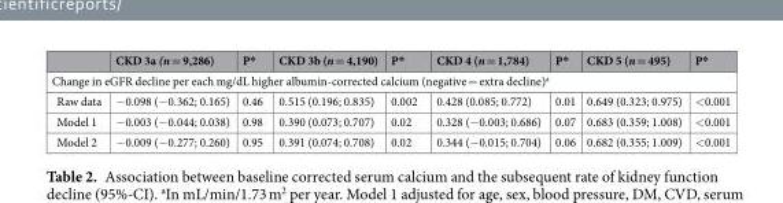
<table><thead><tr><td></td><td>CKD 3a (n = 9,286)</td><td>P*</td><td>CKD 3b (n = 4,190)</td><td>P*</td><td>CKD 4 (n = 1,784)</td><td>P*</td><td>CKD 5 (n = 495)</td><td>P*</td></tr></thead><tbody><tr><td colspan="9">Change in eGFR decline per each mg/dL higher albumin-corrected calcium (negative = extra decline)<sup>a</sup></td></tr><tr><td>Raw data</td><td>−0.098 (−0.362; 0.165)</td><td>0.46</td><td>0.515 (0.196; 0.835)</td><td>0.002</td><td>0.428 (0.085; 0.772)</td><td>0.01</td><td>0.649 (0.323; 0.975)</td><td>&lt;0.001</td></tr><tr><td>Model 1</td><td>−0.003 (−0.044; 0.038)</td><td>0.98</td><td>0.390 (0.073; 0.707)</td><td>0.02</td><td>0.328 (−0.003; 0.686)</td><td>0.07</td><td>0.683 (0.359; 1.008)</td><td>&lt;0.001</td></tr><tr><td>Model 2</td><td>−0.009 (−0.277; 0.260)</td><td>0.95</td><td>0.391 (0.074; 0.708)</td><td>0.02</td><td>0.344 (−0.015; 0.704)</td><td>0.06</td><td>0.682 (0.355; 1.009)</td><td>&lt;0.001</td></tr></tbody></table>